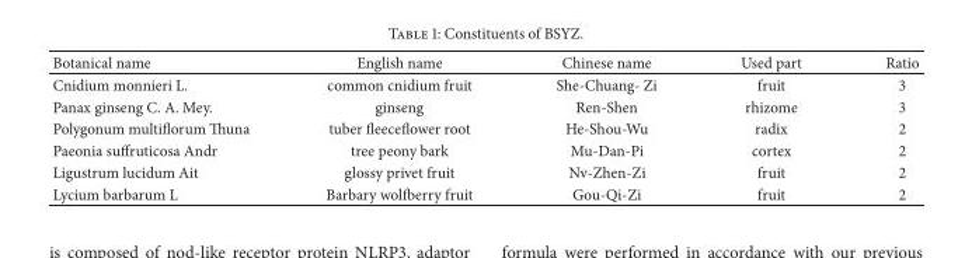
<table><thead><tr><td>Botanical name</td><td>English name</td><td>Chinese name</td><td>Used part</td><td>Ratio</td></tr></thead><tbody><tr><td>Cnidium monnieri L.</td><td>common cnidium fruit</td><td>She-Chuang- Zi</td><td>fruit</td><td>3</td></tr><tr><td>Panax ginseng C. A. Mey.</td><td>ginseng</td><td>Ren-Shen</td><td>rhizome</td><td>3</td></tr><tr><td>Polygonum multiflorum Thuna</td><td>tuber fleeceflower root</td><td>He-Shou-Wu</td><td>radix</td><td>2</td></tr><tr><td>Paeonia suffruticosa Andr</td><td>tree peony bark</td><td>Mu-Dan-Pi</td><td>cortex</td><td>2</td></tr><tr><td>Ligustrum lucidum Ait</td><td>glossy privet fruit</td><td>Nv-Zhen-Zi</td><td>fruit</td><td>2</td></tr><tr><td>Lycium barbarum L</td><td>Barbary wolfberry fruit</td><td>Gou-Qi-Zi</td><td>fruit</td><td>2</td></tr></tbody></table>